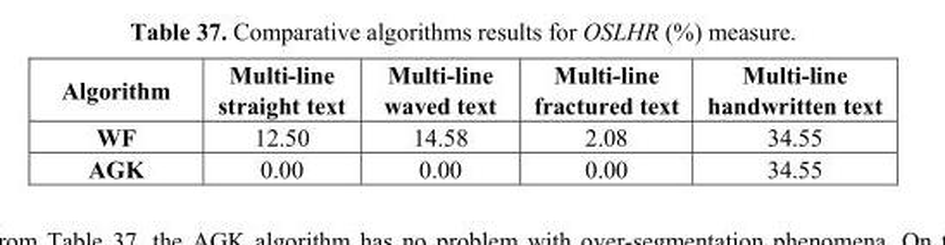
<table><thead><tr><td>Algorithm</td><td>Multi-line straight text</td><td>Multi-line waved text</td><td>Multi-line fractured text</td><td>Multi-line handwritten text</td></tr></thead><tbody><tr><td>WF</td><td>12.50</td><td>14.58</td><td>2.08</td><td>34.55</td></tr><tr><td>AGK</td><td>0.00</td><td>0.00</td><td>0.00</td><td>34.55</td></tr></tbody></table>